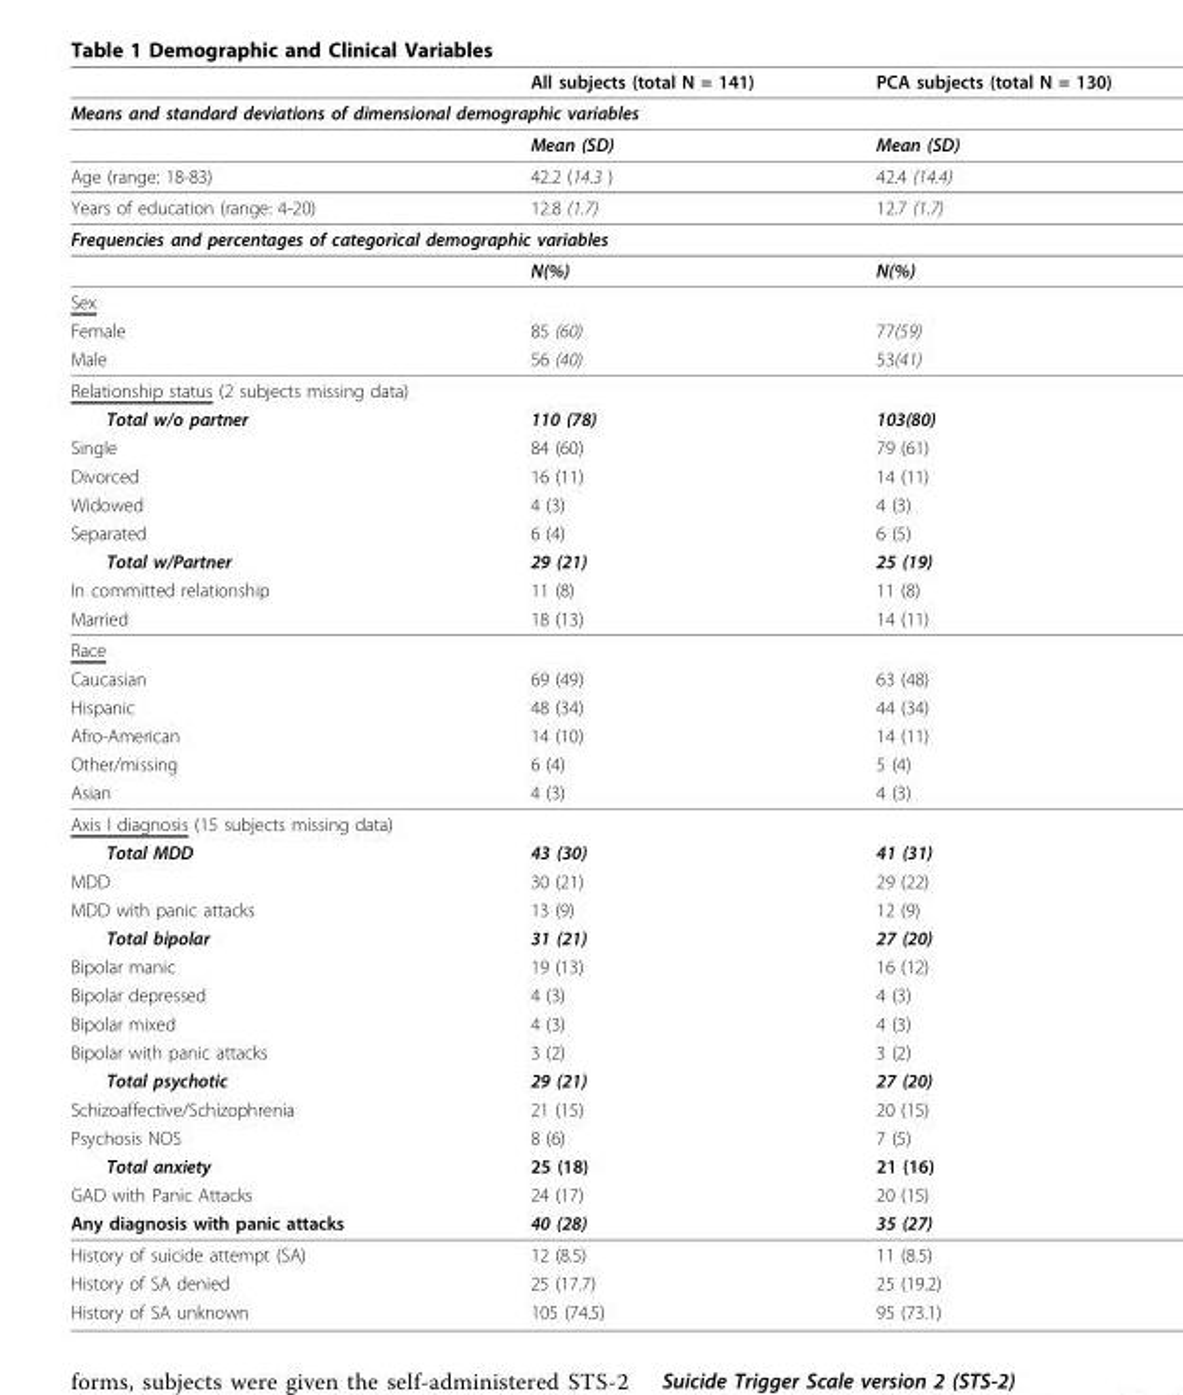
<table><thead><tr><td></td><td>All subjects (total N = 141)</td><td>PCA subjects (total N = 130)</td></tr></thead><tbody><tr><td colspan="3">Means and standard deviations of dimensional demographic variables</td></tr><tr><td></td><td>Mean (SD)</td><td>Mean (SD)</td></tr><tr><td>Age (range: 18-83)</td><td>42.2 (14.3 )</td><td>42.4 (14.4)</td></tr><tr><td>Years of education (range: 4-20)</td><td>12.8 (1.7)</td><td>12.7 (1.7)</td></tr><tr><td colspan="3">Frequencies and percentages of categorical demographic variables</td></tr><tr><td></td><td>N(%)</td><td>N(%)</td></tr><tr><td colspan="3">Sex</td></tr><tr><td>Female</td><td>85 (60)</td><td>77(59)</td></tr><tr><td>Male</td><td>56 (40)</td><td>53(41)</td></tr><tr><td colspan="3">Relationship status (2 subjects missing data)</td></tr><tr><td>Total w/o partner</td><td>110 (78)</td><td>103(80)</td></tr><tr><td>Single</td><td>84 (60)</td><td>79 (61)</td></tr><tr><td>Divorced</td><td>16 (11)</td><td>14 (11)</td></tr><tr><td>Widowed</td><td>4 (3)</td><td>4 (3)</td></tr><tr><td>Separated</td><td>6 (4)</td><td>6 (5)</td></tr><tr><td>Total w/Partner</td><td>29 (21)</td><td>25 (19)</td></tr><tr><td>In committed relationship</td><td>11 (8)</td><td>11 (8)</td></tr><tr><td>Married</td><td>18 (13)</td><td>14 (11)</td></tr><tr><td colspan="3">Race</td></tr><tr><td>Caucasian</td><td>69 (49)</td><td>63 (48)</td></tr><tr><td>Hispanic</td><td>48 (34)</td><td>44 (34)</td></tr><tr><td>Afro-American</td><td>14 (10)</td><td>14 (11)</td></tr><tr><td>Other/missing</td><td>6 (4)</td><td>5 (4)</td></tr><tr><td>Asian</td><td>4 (3)</td><td>4 (3)</td></tr><tr><td colspan="3">Axis I diagnosis (15 subjects missing data)</td></tr><tr><td>Total MDD</td><td>43 (30)</td><td>41 (31)</td></tr><tr><td>MDD</td><td>30 (21)</td><td>29 (22)</td></tr><tr><td>MDD with panic attacks</td><td>13 (9)</td><td>12 (9)</td></tr><tr><td>Total bipolar</td><td>31 (21)</td><td>27 (20)</td></tr><tr><td>Bipolar manic</td><td>19 (13)</td><td>16 (12)</td></tr><tr><td>Bipolar depressed</td><td>4 (3)</td><td>4 (3)</td></tr><tr><td>Bipolar mixed</td><td>4 (3)</td><td>4 (3)</td></tr><tr><td>Bipolar with panic attacks</td><td>3 (2)</td><td>3 (2)</td></tr><tr><td>Total psychotic</td><td>29 (21)</td><td>27 (20)</td></tr><tr><td>Schizoaffective/Schizophrenia</td><td>21 (15)</td><td>20 (15)</td></tr><tr><td>Psychosis NOS</td><td>8 (6)</td><td>7 (5)</td></tr><tr><td>Total anxiety</td><td>25 (18)</td><td>21 (16)</td></tr><tr><td>GAD with Panic Attacks</td><td>24 (17)</td><td>20 (15)</td></tr><tr><td>Any diagnosis with panic attacks</td><td>40 (28)</td><td>35 (27)</td></tr><tr><td>History of suicide attempt (SA)</td><td>12 (8.5)</td><td>11 (8.5)</td></tr><tr><td>History of SA denied</td><td>25 (17.7)</td><td>25 (19.2)</td></tr><tr><td>History of SA unknown</td><td>105 (74.5)</td><td>95 (73.1)</td></tr></tbody></table>